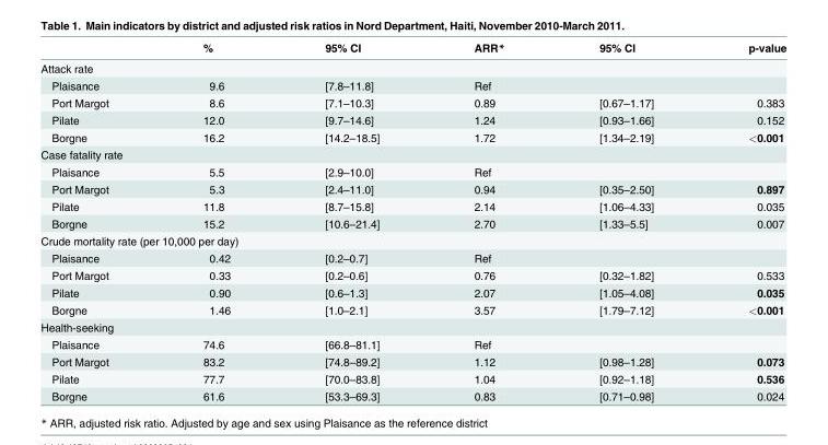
<table><thead><tr><td></td><td>%</td><td>95% CI</td><td>ARR*</td><td>95% CI</td><td>p-value</td></tr></thead><tbody><tr><td colspan="6">Attack rate</td></tr><tr><td>Plaisance</td><td>9.6</td><td>[7.8–11.8]</td><td>Ref</td><td></td><td></td></tr><tr><td>Port Margot</td><td>8.6</td><td>[7.1–10.3]</td><td>0.89</td><td>[0.67–1.17]</td><td>0.383</td></tr><tr><td>Pilate</td><td>12.0</td><td>[9.7–14.6]</td><td>1.24</td><td>[0.93–1.66]</td><td>0.152</td></tr><tr><td>Borgne</td><td>16.2</td><td>[14.2–18.5]</td><td>1.72</td><td>[1.34–2.19]</td><td>&lt;0.001</td></tr><tr><td colspan="6">Case fatality rate</td></tr><tr><td>Plaisance</td><td>5.5</td><td>[2.9–10.0]</td><td>Ref</td><td></td><td></td></tr><tr><td>Port Margot</td><td>5.3</td><td>[2.4–11.0]</td><td>0.94</td><td>[0.35–2.50]</td><td>0.897</td></tr><tr><td>Pilate</td><td>11.8</td><td>[8.7–15.8]</td><td>2.14</td><td>[1.06–4.33]</td><td>0.035</td></tr><tr><td>Borgne</td><td>15.2</td><td>[10.6–21.4]</td><td>2.70</td><td>[1.33–5.5]</td><td>0.007</td></tr><tr><td colspan="6">Crude mortality rate (per 10,000 per day)</td></tr><tr><td>Plaisance</td><td>0.42</td><td>[0.2–0.7]</td><td>Ref</td><td></td><td></td></tr><tr><td>Port Margot</td><td>0.33</td><td>[0.2–0.6]</td><td>0.76</td><td>[0.32–1.82]</td><td>0.533</td></tr><tr><td>Pilate</td><td>0.90</td><td>[0.6–1.3]</td><td>2.07</td><td>[1.05–4.08]</td><td>0.035</td></tr><tr><td>Borgne</td><td>1.46</td><td>[1.0–2.1]</td><td>3.57</td><td>[1.79–7.12]</td><td>&lt;0.001</td></tr><tr><td colspan="6">Health-seeking</td></tr><tr><td>Plaisance</td><td>74.6</td><td>[66.8–81.1]</td><td>Ref</td><td></td><td></td></tr><tr><td>Port Margot</td><td>83.2</td><td>[74.8–89.2]</td><td>1.12</td><td>[0.98–1.28]</td><td>0.073</td></tr><tr><td>Pilate</td><td>77.7</td><td>[70.0–83.8]</td><td>1.04</td><td>[0.92–1.18]</td><td>0.536</td></tr><tr><td>Borgne</td><td>61.6</td><td>[53.3–69.3]</td><td>0.83</td><td>[0.71–0.98]</td><td>0.024</td></tr></tbody></table>